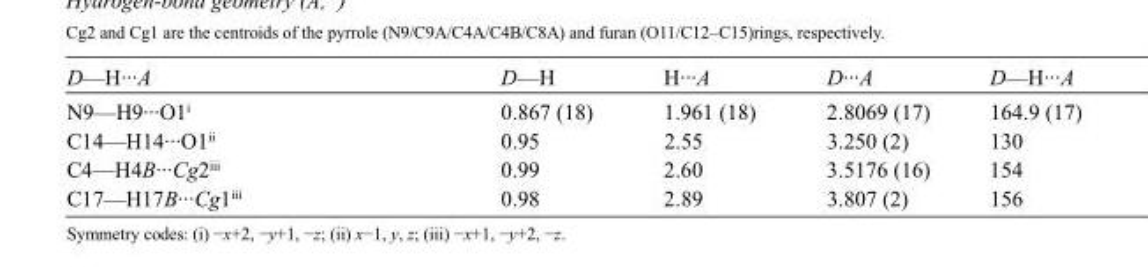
<table><tbody><tr><td>D—H···A</td><td>D—H</td><td>H···A</td><td>D···A</td><td>D—H···A</td></tr><tr><td>N9—H9···O1<sup>i</sup></td><td>0.867 (18)</td><td>1.961 (18)</td><td>2.8069 (17)</td><td>164.9 (17)</td></tr><tr><td>C14—H14···O1<sup>ii</sup></td><td>0.95</td><td>2.55</td><td>3.250 (2)</td><td>130</td></tr><tr><td>C4—H4B···Cg2<sup>iii</sup></td><td>0.99</td><td>2.60</td><td>3.5176 (16)</td><td>154</td></tr><tr><td>C17—H17B···Cg1<sup>iii</sup></td><td>0.98</td><td>2.89</td><td>3.807 (2)</td><td>156</td></tr></tbody></table>